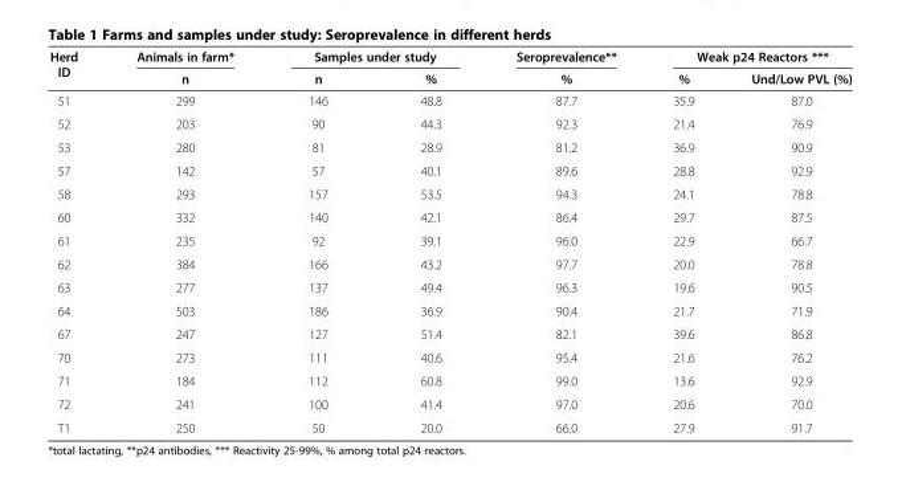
<table><thead><tr><td rowspan="2">Herd ID</td><td rowspan="2">Animals in farm* n</td><td colspan="2">Samples under study</td><td rowspan="2">Seroprevalence** %</td><td colspan="2">Weak p24 Reactors ***</td></tr><tr><td>n</td><td>%</td><td>%</td><td>Und/Low PVL (%)</td></tr></thead><tbody><tr><td>51</td><td>299</td><td>146</td><td>48.8</td><td>87.7</td><td>35.9</td><td>87.0</td></tr><tr><td>52</td><td>203</td><td>90</td><td>44.3</td><td>92.3</td><td>21.4</td><td>76.9</td></tr><tr><td>53</td><td>280</td><td>81</td><td>28.9</td><td>81.2</td><td>36.9</td><td>90.9</td></tr><tr><td>57</td><td>142</td><td>57</td><td>40.1</td><td>89.6</td><td>28.8</td><td>92.9</td></tr><tr><td>58</td><td>293</td><td>157</td><td>53.5</td><td>94.3</td><td>24.1</td><td>78.8</td></tr><tr><td>60</td><td>332</td><td>140</td><td>42.1</td><td>86.4</td><td>29.7</td><td>87.5</td></tr><tr><td>61</td><td>235</td><td>92</td><td>39.1</td><td>96.0</td><td>22.9</td><td>66.7</td></tr><tr><td>62</td><td>384</td><td>166</td><td>43.2</td><td>97.7</td><td>20.0</td><td>78.8</td></tr><tr><td>63</td><td>277</td><td>137</td><td>49.4</td><td>96.3</td><td>19.6</td><td>90.5</td></tr><tr><td>64</td><td>503</td><td>186</td><td>36.9</td><td>90.4</td><td>21.7</td><td>71.9</td></tr><tr><td>67</td><td>247</td><td>127</td><td>51.4</td><td>82.1</td><td>39.6</td><td>86.8</td></tr><tr><td>70</td><td>273</td><td>111</td><td>40.6</td><td>95.4</td><td>21.6</td><td>76.2</td></tr><tr><td>71</td><td>184</td><td>112</td><td>60.8</td><td>99.0</td><td>13.6</td><td>92.9</td></tr><tr><td>72</td><td>241</td><td>100</td><td>41.4</td><td>97.0</td><td>20.6</td><td>70.0</td></tr><tr><td>T1</td><td>250</td><td>50</td><td>20.0</td><td>66.0</td><td>27.9</td><td>91.7</td></tr></tbody></table>